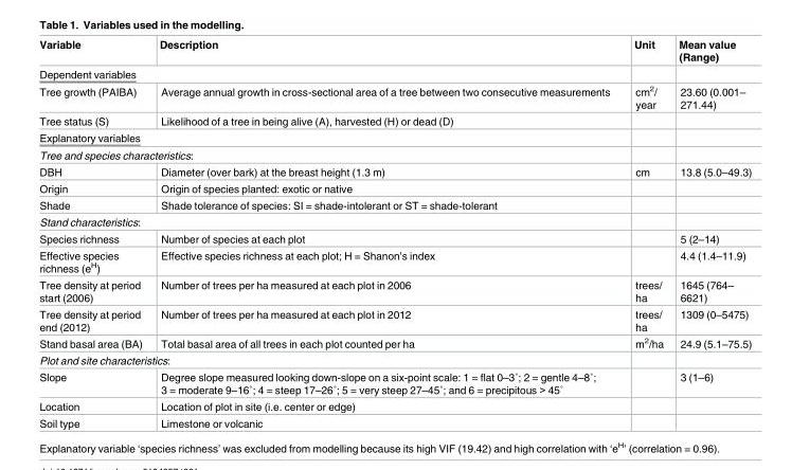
<table><thead><tr><td>Variable</td><td>Description</td><td>Unit</td><td>Mean value (Range)</td></tr></thead><tbody><tr><td colspan="4">Dependent variables</td></tr><tr><td>Tree growth (PAIBA)</td><td>Average annual growth in cross-sectional area of a tree between two consecutive measurements</td><td>cm<sup>2</sup>/ year</td><td>23.60 (0.001– 271.44)</td></tr><tr><td>Tree status (S)</td><td>Likelihood of a tree in being alive (A), harvested (H) or dead (D)</td><td></td><td></td></tr><tr><td colspan="4">Explanatory variables</td></tr><tr><td colspan="4">Tree and species characteristics:</td></tr><tr><td>DBH</td><td>Diameter (over bark) at the breast height (1.3 m)</td><td>cm</td><td>13.8 (5.0–49.3)</td></tr><tr><td>Origin</td><td>Origin of species planted: exotic or native</td><td></td><td></td></tr><tr><td>Shade</td><td>Shade tolerance of species: SI = shade-intolerant or ST = shade-tolerant</td><td></td><td></td></tr><tr><td colspan="4">Stand characteristics:</td></tr><tr><td>Species richness</td><td>Number of species at each plot</td><td></td><td>5 (2–14)</td></tr><tr><td>Effective species richness (e<sup>H</sup>)</td><td>Effective species richness at each plot; H = Shanon’s index</td><td></td><td>4.4 (1.4–11.9)</td></tr><tr><td>Tree density at period start (2006)</td><td>Number of trees per ha measured at each plot in 2006</td><td>trees/ ha</td><td>1645 (764– 6621)</td></tr><tr><td>Tree density at period end (2012)</td><td>Number of trees per ha measured at each plot in 2012</td><td>trees/ ha</td><td>1309 (0–5475)</td></tr><tr><td>Stand basal area (BA)</td><td>Total basal area of all trees in each plot counted per ha</td><td>m<sup>2</sup>/ha</td><td>24.9 (5.1–75.5)</td></tr><tr><td colspan="4">Plot and site characteristics:</td></tr><tr><td>Slope</td><td>Degree slope measured looking down-slope on a six-point scale: 1 = flat 0–3˚; 2 = gentle 4–8˚; 3 = moderate 9–16˚; 4 = steep 17–26˚; 5 = very steep 27–45˚; and 6 = precipitous &gt; 45˚</td><td></td><td>3 (1–6)</td></tr><tr><td>Location</td><td>Location of plot in site (i.e. center or edge)</td><td></td><td></td></tr><tr><td>Soil type</td><td>Limestone or volcanic</td><td></td><td></td></tr></tbody></table>